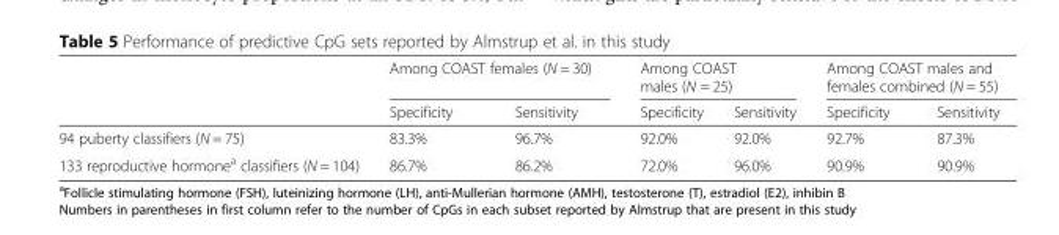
<table><thead><tr><td rowspan="2"></td><td colspan="2">Among COAST females (N = 30)</td><td colspan="2">Among COAST males (N = 25)</td><td colspan="2">Among COAST males and females combined (N = 55)</td></tr><tr><td>Specificity</td><td>Sensitivity</td><td>Specificity</td><td>Sensitivity</td><td>Specificity</td><td>Sensitivity</td></tr></thead><tbody><tr><td>94 puberty classifiers (N = 75)</td><td>83.3%</td><td>96.7%</td><td>92.0%</td><td>92.0%</td><td>92.7%</td><td>87.3%</td></tr><tr><td>133 reproductive hormone<sup>a</sup> classifiers (N = 104)</td><td>86.7%</td><td>86.2%</td><td>72.0%</td><td>96.0%</td><td>90.9%</td><td>90.9%</td></tr></tbody></table>